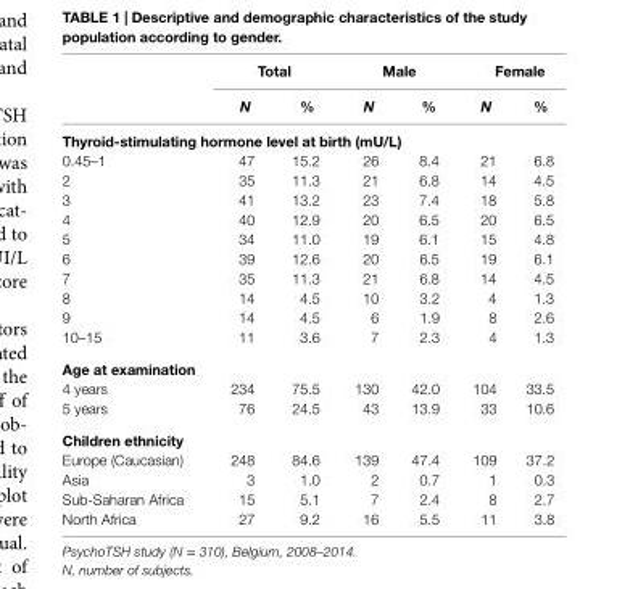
<table><thead><tr><td rowspan="2"></td><td colspan="2">Total</td><td colspan="2">Male</td><td colspan="2">Female</td></tr><tr><td>N</td><td>%</td><td>N</td><td>%</td><td>N</td><td>%</td></tr></thead><tbody><tr><td colspan="7">Thyroid-stimulating hormone level at birth (mU/l)</td></tr><tr><td>0.45–1</td><td>47</td><td>15.2</td><td>26</td><td>8.4</td><td>21</td><td>6.8</td></tr><tr><td>2</td><td>35</td><td>11.3</td><td>21</td><td>6.8</td><td>14</td><td>4.5</td></tr><tr><td>3</td><td>41</td><td>13.2</td><td>23</td><td>7.4</td><td>18</td><td>5.8</td></tr><tr><td>4</td><td>40</td><td>12.9</td><td>20</td><td>6.5</td><td>20</td><td>6.5</td></tr><tr><td>5</td><td>34</td><td>11.0</td><td>19</td><td>6.1</td><td>15</td><td>4.8</td></tr><tr><td>6</td><td>39</td><td>12.6</td><td>20</td><td>6.5</td><td>19</td><td>6.1</td></tr><tr><td>7</td><td>35</td><td>11.3</td><td>21</td><td>6.8</td><td>14</td><td>4.5</td></tr><tr><td>8</td><td>14</td><td>4.5</td><td>10</td><td>3.2</td><td>4</td><td>1.3</td></tr><tr><td>9</td><td>14</td><td>4.5</td><td>6</td><td>1.9</td><td>8</td><td>2.6</td></tr><tr><td>10–15</td><td>11</td><td>3.6</td><td>7</td><td>2.3</td><td>4</td><td>1.3</td></tr><tr><td colspan="7">age at examination</td></tr><tr><td>4 years</td><td>234</td><td>75.5</td><td>130</td><td>42.0</td><td>104</td><td>33.5</td></tr><tr><td>5 years</td><td>76</td><td>24.5</td><td>43</td><td>13.9</td><td>33</td><td>10.6</td></tr><tr><td colspan="7">children ethnicity</td></tr><tr><td>Europe (Caucasian)</td><td>248</td><td>84.6</td><td>139</td><td>47.4</td><td>109</td><td>37.2</td></tr><tr><td>Asia</td><td>3</td><td>1.0</td><td>2</td><td>0.7</td><td>1</td><td>0.3</td></tr><tr><td>Sub-Saharan Africa</td><td>15</td><td>5.1</td><td>7</td><td>2.4</td><td>8</td><td>2.7</td></tr><tr><td>North Africa</td><td>27</td><td>9.2</td><td>16</td><td>5.5</td><td>11</td><td>3.8</td></tr></tbody></table>